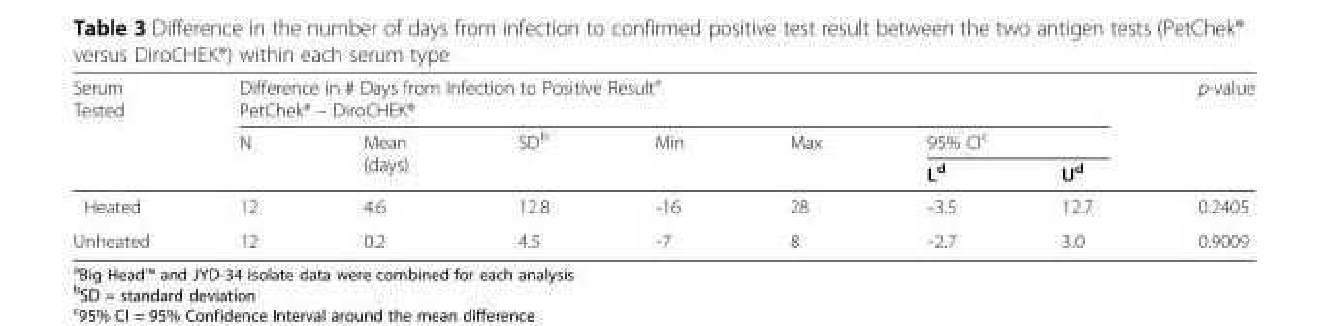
<table><thead><tr><td rowspan="3">Serum Tested</td><td colspan="7">Difference in # Days from Infection to Positive Result<sup>a</sup> PetChek® – DiroCHEK®</td><td rowspan="3">p-value</td></tr><tr><td rowspan="2">N</td><td rowspan="2">Mean (days)</td><td rowspan="2">SD<sup>b</sup></td><td rowspan="2">Min</td><td rowspan="2">Max</td><td colspan="2">95% CI<sup>c</sup></td></tr><tr><td>L<sup>d</sup></td><td>U<sup>d</sup></td></tr></thead><tbody><tr><td>Heated</td><td>12</td><td>4.6</td><td>12.8</td><td>˗16</td><td>28</td><td>˗3.5</td><td>12.7</td><td>0.2405</td></tr><tr><td>Unheated</td><td>12</td><td>0.2</td><td>4.5</td><td>˗7</td><td>8</td><td>˗2.7</td><td>3.0</td><td>0.9009</td></tr></tbody></table>